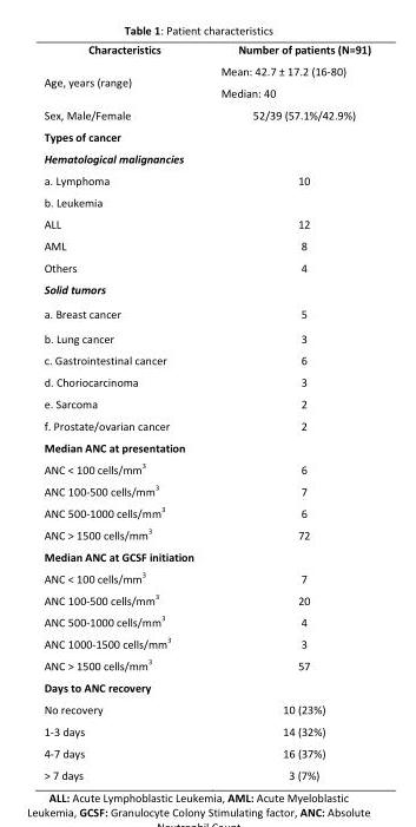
<table><tbody><tr><td>Characteristics</td><td>Number of patients (N=91)</td></tr><tr><td>Age, years (range)</td><td>Mean: 42.7 ± 17.2 (16-80) Median: 40</td></tr><tr><td>Sex, Male/Female</td><td>52/39 (57.1%/42.9%)</td></tr><tr><td colspan="2">Types of cancer</td></tr><tr><td colspan="2">Hematological malignancies</td></tr><tr><td>a. Lymphoma</td><td>10</td></tr><tr><td>b. Leukemia ALL AML Others</td><td>12 8 4</td></tr><tr><td colspan="2">Solid tumors</td></tr><tr><td>a. Breast cancer</td><td>5</td></tr><tr><td>b. Lung cancer</td><td>3</td></tr><tr><td>c. Gastrointestinal cancer</td><td>6</td></tr><tr><td>d. Choriocarcinoma</td><td>3</td></tr><tr><td>e. Sarcoma</td><td>2</td></tr><tr><td>f. Prostate/ovarian cancer</td><td>2</td></tr><tr><td colspan="2">Median ANC at presentation</td></tr><tr><td>ANC &lt; 100 cells/mm<sup>3</sup></td><td>6</td></tr><tr><td>ANC 100-500 cells/mm<sup>3</sup></td><td>7</td></tr><tr><td>ANC 500-1000 cells/mm<sup>3</sup></td><td>6</td></tr><tr><td>ANC &gt; 1500 cells/mm<sup>3</sup></td><td>72</td></tr><tr><td colspan="2">Median ANC at GCSF initiation</td></tr><tr><td>ANC &lt; 100 cells/mm<sup>3</sup></td><td>7</td></tr><tr><td>ANC 100-500 cells/mm<sup>3</sup></td><td>20</td></tr><tr><td>ANC 500-1000 cells/mm<sup>3</sup></td><td>4</td></tr><tr><td>ANC 1000-1500 cells/mm<sup>3</sup></td><td>3</td></tr><tr><td>ANC &gt; 1500 cells/mm<sup>3</sup></td><td>57</td></tr><tr><td colspan="2">Days to ANC recovery</td></tr><tr><td>No recovery</td><td>10 (23%)</td></tr><tr><td>1-3 days</td><td>14 (32%)</td></tr><tr><td>4-7 days</td><td>16 (37%)</td></tr><tr><td>&gt; 7 days</td><td>3 (7%)</td></tr></tbody></table>